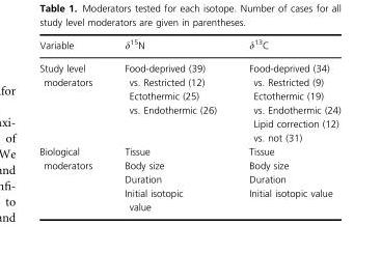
<table><thead><tr><td>Variable</td><td>δ<sup>15</sup>N</td><td>δ<sup>13</sup>C</td></tr></thead><tbody><tr><td>Study level moderators</td><td>Food-deprived (39) vs. Restricted (12) Ectothermic (25) vs. Endothermic (26)</td><td>Food-deprived (34) vs. Restricted (9) Ectothermic (19) vs. Endothermic (24) Lipid correction (12) vs. not (31)</td></tr><tr><td rowspan="4">Biological moderators</td><td>Tissue</td><td>Tissue</td></tr><tr><td>Body size</td><td>Body size</td></tr><tr><td>Duration</td><td>Duration</td></tr><tr><td>Initial isotopic value</td><td>Initial isotopic value</td></tr></tbody></table>